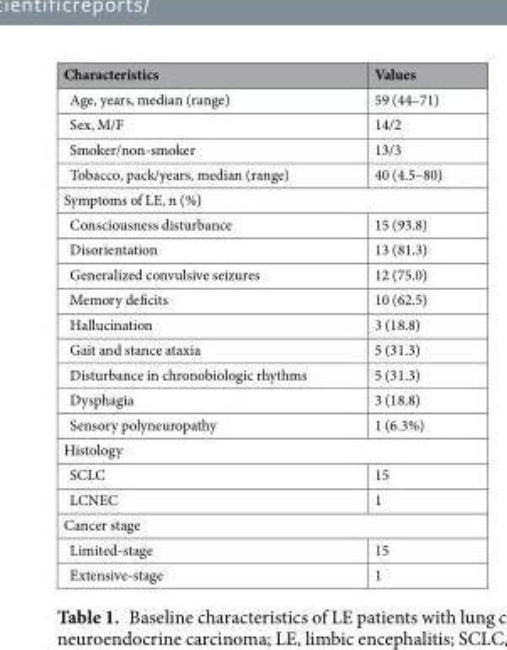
<table><thead><tr><td>Characteristics</td><td>Values</td></tr></thead><tbody><tr><td>Age, years, median (range)</td><td>59 (44–71)</td></tr><tr><td>Sex, M/F</td><td>14/2</td></tr><tr><td>Smoker/non-smoker</td><td>13/3</td></tr><tr><td>Tobacco, pack/years, median (range)</td><td>40 (4.5–80)</td></tr><tr><td colspan="2">Symptoms of LE, n (%)</td></tr><tr><td>Consciousness disturbance</td><td>15 (93.8)</td></tr><tr><td>Disorientation</td><td>13 (81.3)</td></tr><tr><td>Generalized convulsive seizures</td><td>12 (75.0)</td></tr><tr><td>Memory deficits</td><td>10 (62.5)</td></tr><tr><td>Hallucination</td><td>3 (18.8)</td></tr><tr><td>Gait and stance ataxia</td><td>5 (31.3)</td></tr><tr><td>Disturbance in chronobiologic rhythms</td><td>5 (31.3)</td></tr><tr><td>Dysphagia</td><td>3 (18.8)</td></tr><tr><td>Sensory polyneuropathy</td><td>1 (6.3%)</td></tr><tr><td colspan="2">Histology</td></tr><tr><td>SCLC</td><td>15</td></tr><tr><td>LCNEC</td><td>1</td></tr><tr><td colspan="2">Cancer stage</td></tr><tr><td>Limited-stage</td><td>15</td></tr><tr><td>Extensive-stage</td><td>1</td></tr></tbody></table>